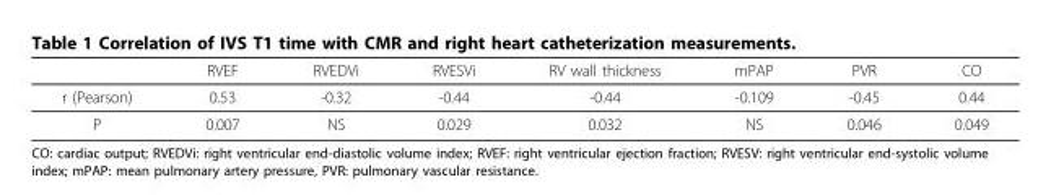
<table><thead><tr><td></td><td>RVEF</td><td>RVEDVi</td><td>RVESVi</td><td>RV wall thickness</td><td>mPAP</td><td>PVR</td><td>CO</td></tr></thead><tbody><tr><td>r (Pearson)</td><td>0.53</td><td>-0.32</td><td>-0.44</td><td>-0.44</td><td>-0.109</td><td>-0.45</td><td>0.44</td></tr><tr><td>P</td><td>0.007</td><td>NS</td><td>0.029</td><td>0.032</td><td>NS</td><td>0.046</td><td>0.049</td></tr></tbody></table>